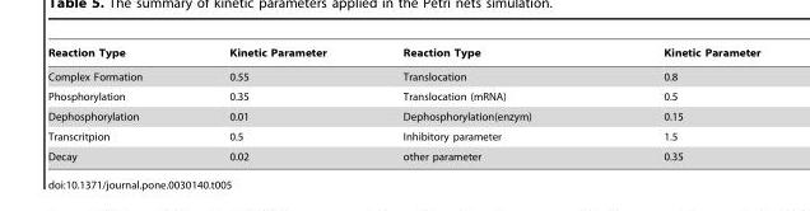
<table><thead><tr><td>Reaction Type</td><td>Kinetic Parameter</td><td>Reaction Type</td><td>Kinetic Parameter</td></tr></thead><tbody><tr><td>Complex Formation</td><td>0.55</td><td>Translocation</td><td>0.8</td></tr><tr><td>Phosphorylation</td><td>0.35</td><td>Translocation (mRNA)</td><td>0.5</td></tr><tr><td>Dephosphorylation</td><td>0.01</td><td>Dephosphorylation(enzym)</td><td>0.15</td></tr><tr><td>Transcritpion</td><td>0.5</td><td>Inhibitory parameter</td><td>1.5</td></tr><tr><td>Decay</td><td>0.02</td><td>other parameter</td><td>0.35</td></tr></tbody></table>